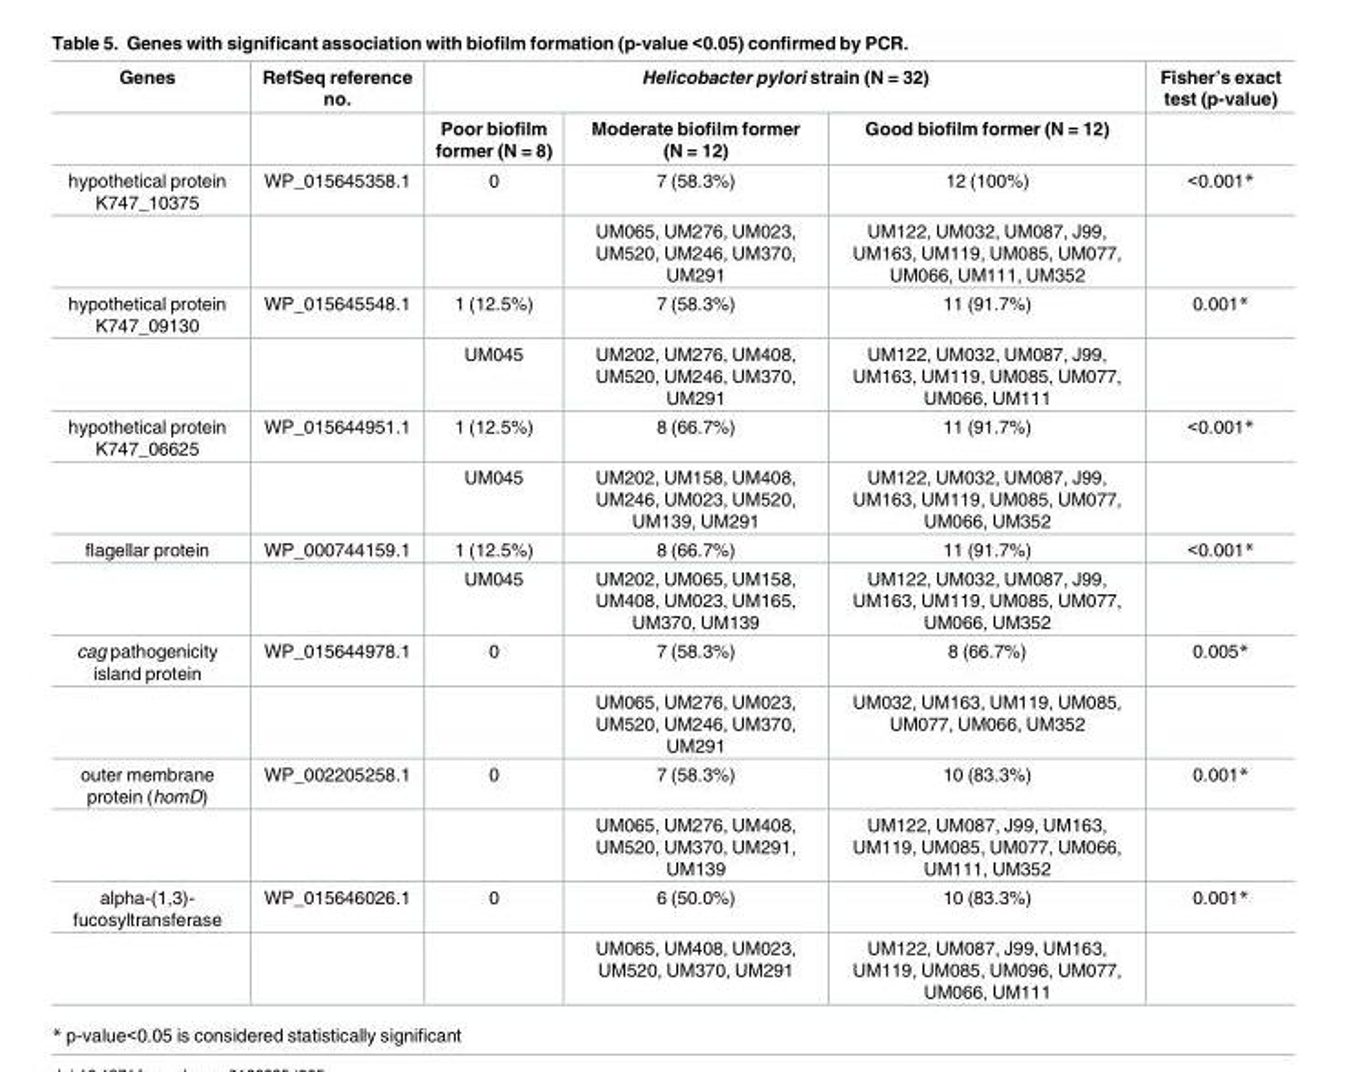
<table><thead><tr><td rowspan="2">Genes</td><td rowspan="2">RefSeq reference no.</td><td colspan="3">Helicobacter pylori strain (N = 32)</td><td rowspan="2">Fisher’s exact test (p-value)</td></tr><tr><td>Poor biofilm former (N = 8)</td><td>Moderate biofilm former (N = 12)</td><td>Good biofilm former (N = 12)</td></tr></thead><tbody><tr><td rowspan="2">hypothetical protein K747_10375</td><td>WP_015645358.1</td><td>0</td><td>7 (58.3%)</td><td>12 (100%)</td><td>&lt;0.001*</td></tr><tr><td></td><td></td><td>UM065, UM276, UM023, UM520, UM246, UM370, UM291</td><td>UM122, UM032, UM087, J99, UM163, UM119, UM085, UM077, UM066, UM111, UM352</td><td></td></tr><tr><td rowspan="2">hypothetical protein K747_09130</td><td>WP_015645548.1</td><td>1 (12.5%)</td><td>7 (58.3%)</td><td>11 (91.7%)</td><td>0.001*</td></tr><tr><td></td><td>UM045</td><td>UM202, UM276, UM408, UM520, UM246, UM370, UM291</td><td>UM122, UM032, UM087, J99, UM163, UM119, UM085, UM077, UM066, UM111</td><td></td></tr><tr><td rowspan="2">hypothetical protein K747_06625</td><td>WP_015644951.1</td><td>1 (12.5%)</td><td>8 (66.7%)</td><td>11 (91.7%)</td><td>&lt;0.001*</td></tr><tr><td></td><td>UM045</td><td>UM202, UM158, UM408, UM246, UM023, UM520, UM139, UM291</td><td>UM122, UM032, UM087, J99, UM163, UM119, UM085, UM077, UM066, UM352</td><td></td></tr><tr><td rowspan="2">flagellar protein</td><td>WP_000744159.1</td><td>1 (12.5%)</td><td>8 (66.7%)</td><td>11 (91.7%)</td><td>&lt;0.001*</td></tr><tr><td></td><td>UM045</td><td>UM202, UM065, UM158, UM408, UM023, UM165, UM370, UM139</td><td>UM122, UM032, UM087, J99, UM163, UM119, UM085, UM077, UM066, UM352</td><td></td></tr><tr><td rowspan="2">cag pathogenicity island protein</td><td>WP_015644978.1</td><td>0</td><td>7 (58.3%)</td><td>8 (66.7%)</td><td>0.005*</td></tr><tr><td></td><td></td><td>UM065, UM276, UM023, UM520, UM246, UM370, UM291</td><td>UM032, UM163, UM119, UM085, UM077, UM066, UM352</td><td></td></tr><tr><td rowspan="2">outer membrane protein (homD)</td><td>WP_002205258.1</td><td>0</td><td>7 (58.3%)</td><td>10 (83.3%)</td><td>0.001*</td></tr><tr><td></td><td></td><td>UM065, UM276, UM408, UM520, UM370, UM291, UM139</td><td>UM122, UM087, J99, UM163, UM119, UM085, UM077, UM066, UM111, UM352</td><td></td></tr><tr><td rowspan="2">alpha-(1,3)- fucosyltransferase</td><td>WP_015646026.1</td><td>0</td><td>6 (50.0%)</td><td>10 (83.3%)</td><td>0.001*</td></tr><tr><td></td><td></td><td>UM065, UM408, UM023, UM520, UM370, UM291</td><td>UM122, UM087, J99, UM163, UM119, UM085, UM096, UM077, UM066, UM111</td><td></td></tr></tbody></table>